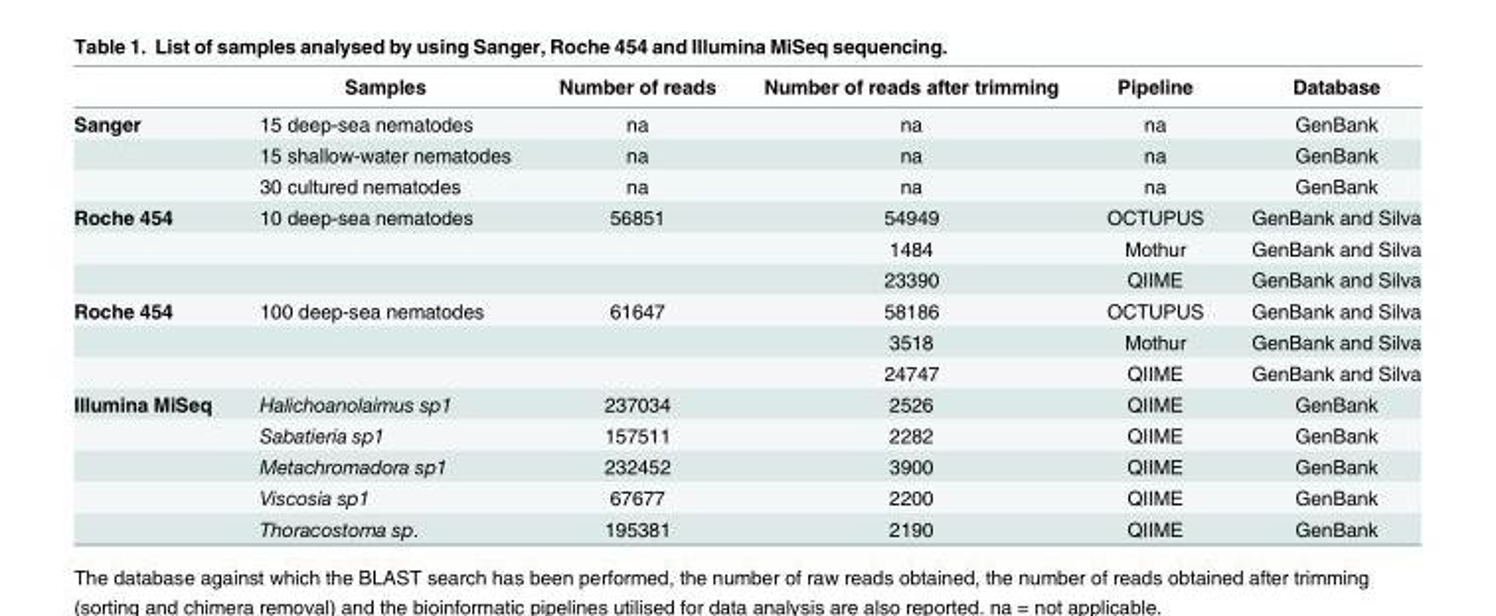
<table><thead><tr><td></td><td>Samples</td><td>Number of reads</td><td>Number of reads after trimming</td><td>Pipeline</td><td>Database</td></tr></thead><tbody><tr><td rowspan="3">Sanger</td><td>15 deep-sea nematodes</td><td>na</td><td>na</td><td>na</td><td>GenBank</td></tr><tr><td>15 shallow-water nematodes</td><td>na</td><td>na</td><td>na</td><td>GenBank</td></tr><tr><td>30 cultured nematodes</td><td>na</td><td>na</td><td>na</td><td>GenBank</td></tr><tr><td rowspan="3">Roche 454</td><td>10 deep-sea nematodes</td><td>56851</td><td>54949</td><td>OCTUPUS</td><td>GenBank and Silva</td></tr><tr><td></td><td></td><td>1484</td><td>Mothur</td><td>GenBank and Silva</td></tr><tr><td></td><td></td><td>23390</td><td>QIIME</td><td>GenBank and Silva</td></tr><tr><td rowspan="3">Roche 454</td><td>100 deep-sea nematodes</td><td>61647</td><td>58186</td><td>OCTUPUS</td><td>GenBank and Silva</td></tr><tr><td></td><td></td><td>3518</td><td>Mothur</td><td>GenBank and Silva</td></tr><tr><td></td><td></td><td>24747</td><td>QIIME</td><td>GenBank and Silva</td></tr><tr><td rowspan="5">Illumina MiSeq</td><td>Halichoanolaimus sp1</td><td>237034</td><td>2526</td><td>QIIME</td><td>GenBank</td></tr><tr><td>Sabatieria sp1</td><td>157511</td><td>2282</td><td>QIIME</td><td>GenBank</td></tr><tr><td>Metachromadora sp1</td><td>232452</td><td>3900</td><td>QIIME</td><td>GenBank</td></tr><tr><td>Viscosia sp1</td><td>67677</td><td>2200</td><td>QIIME</td><td>GenBank</td></tr><tr><td>Thoracostoma sp.</td><td>195381</td><td>2190</td><td>QIIME</td><td>GenBank</td></tr></tbody></table>